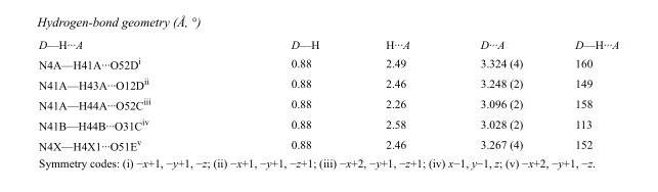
<table><tbody><tr><td>D—H···A</td><td>D—H</td><td>H···A</td><td>D···A</td><td>D—H···A</td></tr><tr><td>N4A—H41A···O52D<sup>i</sup></td><td>0.88</td><td>2.49</td><td>3.324 (4)</td><td>160</td></tr><tr><td>N41A—H43A···O12D<sup>ii</sup></td><td>0.88</td><td>2.46</td><td>3.248 (2)</td><td>149</td></tr><tr><td>N41A—H44A···O52C<sup>iii</sup></td><td>0.88</td><td>2.26</td><td>3.096 (2)</td><td>158</td></tr><tr><td>N41B—H44B···O31C<sup>iv</sup></td><td>0.88</td><td>2.58</td><td>3.028 (2)</td><td>113</td></tr><tr><td>N4X—H4X1···O51E<sup>v</sup></td><td>0.88</td><td>2.46</td><td>3.267 (4)</td><td>152</td></tr></tbody></table>